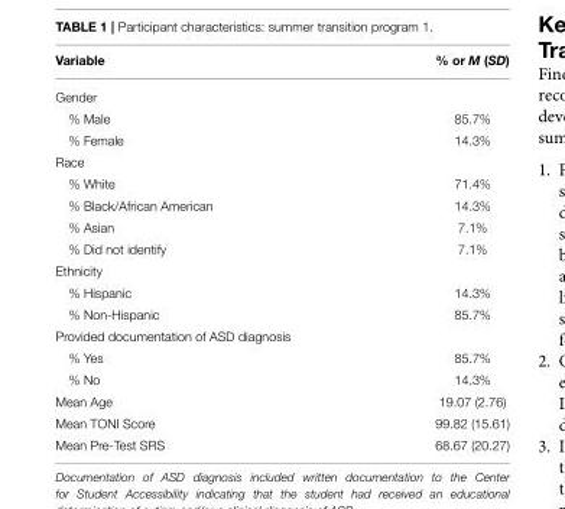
<table><thead><tr><td>Variable</td><td>% or M (SD)</td></tr></thead><tbody><tr><td colspan="2">Gender</td></tr><tr><td>% Male</td><td>85.7%</td></tr><tr><td>% Female</td><td>14.3%</td></tr><tr><td colspan="2">Race</td></tr><tr><td>% White</td><td>71.4%</td></tr><tr><td>% Black/African American</td><td>14.3%</td></tr><tr><td>% Asian</td><td>7.1%</td></tr><tr><td>% Did not identify</td><td>7.1%</td></tr><tr><td colspan="2">Ethnicity</td></tr><tr><td>% Hispanic</td><td>14.3%</td></tr><tr><td>% Non-Hispanic</td><td>85.7%</td></tr><tr><td colspan="2">Provided documentation of ASD diagnosis</td></tr><tr><td>% Yes</td><td>85.7%</td></tr><tr><td>% No</td><td>14.3%</td></tr><tr><td>Mean Age</td><td>19.07 (2.76)</td></tr><tr><td>Mean TONI Score</td><td>99.82 (15.61)</td></tr><tr><td>Mean Pre-Test SRS</td><td>68.67 (20.27)</td></tr></tbody></table>